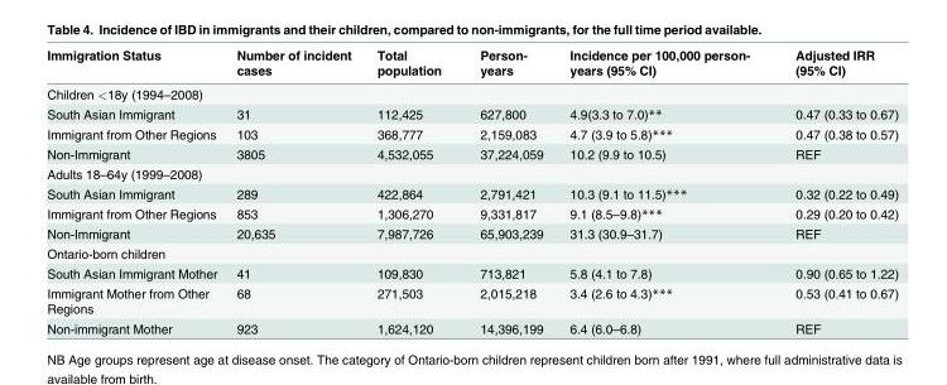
<table><thead><tr><td>Immigration Status</td><td>Number of incident cases</td><td>Total population</td><td>Person- years</td><td>Incidence per 100,000 person- years (95% CI)</td><td>Adjusted IRR (95% CI)</td></tr></thead><tbody><tr><td colspan="6">Children &lt;18y (1994–2008)</td></tr><tr><td>South Asian Immigrant</td><td>31</td><td>112,425</td><td>627,800</td><td>4.9(3.3 to 7.0)**</td><td>0.47 (0.33 to 0.67)</td></tr><tr><td>Immigrant from Other Regions</td><td>103</td><td>368,777</td><td>2,159,083</td><td>4.7 (3.9 to 5.8)***</td><td>0.47 (0.38 to 0.57)</td></tr><tr><td>Non-Immigrant</td><td>3805</td><td>4,532,055</td><td>37,224,059</td><td>10.2 (9.9 to 10.5)</td><td>REF</td></tr><tr><td colspan="6">Adults 18–64y (1999–2008)</td></tr><tr><td>South Asian Immigrant</td><td>289</td><td>422,864</td><td>2,791,421</td><td>10.3 (9.1 to 11.5)***</td><td>0.32 (0.22 to 0.49)</td></tr><tr><td>Immigrant from Other Regions</td><td>853</td><td>1,306,270</td><td>9,331,817</td><td>9.1 (8.5–9.8)***</td><td>0.29 (0.20 to 0.42)</td></tr><tr><td>Non-Immigrant</td><td>20,635</td><td>7,987,726</td><td>65,903,239</td><td>31.3 (30.9–31.7)</td><td>REF</td></tr><tr><td colspan="6">Ontario-born children</td></tr><tr><td>South Asian Immigrant Mother</td><td>41</td><td>109,830</td><td>713,821</td><td>5.8 (4.1 to 7.8)</td><td>0.90 (0.65 to 1.22)</td></tr><tr><td>Immigrant Mother from Other Regions</td><td>68</td><td>271,503</td><td>2,015,218</td><td>3.4 (2.6 to 4.3)***</td><td>0.53 (0.41 to 0.67)</td></tr><tr><td>Non-immigrant Mother</td><td>923</td><td>1,624,120</td><td>14,396,199</td><td>6.4 (6.0–6.8)</td><td>REF</td></tr></tbody></table>